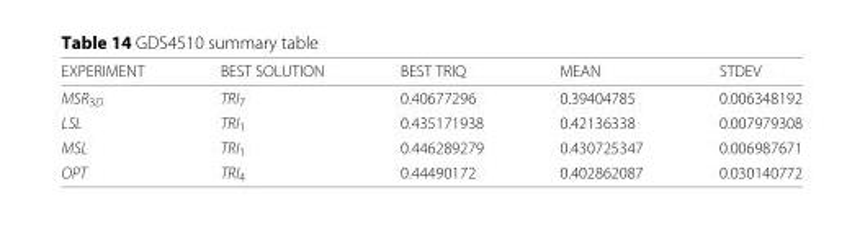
<table><thead><tr><td>EXPERIMENT</td><td>BEST SOLUTION</td><td>BEST TRIQ</td><td>MEAN</td><td>STDEV</td></tr></thead><tbody><tr><td>MSR<sub>3D</sub></td><td>TRI<sub>7</sub></td><td>0.40677296</td><td>0.39404785</td><td>0.006348192</td></tr><tr><td>LSL</td><td>TRI<sub>1</sub></td><td>0.435171938</td><td>0.42136338</td><td>0.007979308</td></tr><tr><td>MSL</td><td>TRI<sub>1</sub></td><td>0.446289279</td><td>0.430725347</td><td>0.006987671</td></tr><tr><td>OPT</td><td>TRI<sub>4</sub></td><td>0.44490172</td><td>0.402862087</td><td>0.030140772</td></tr></tbody></table>